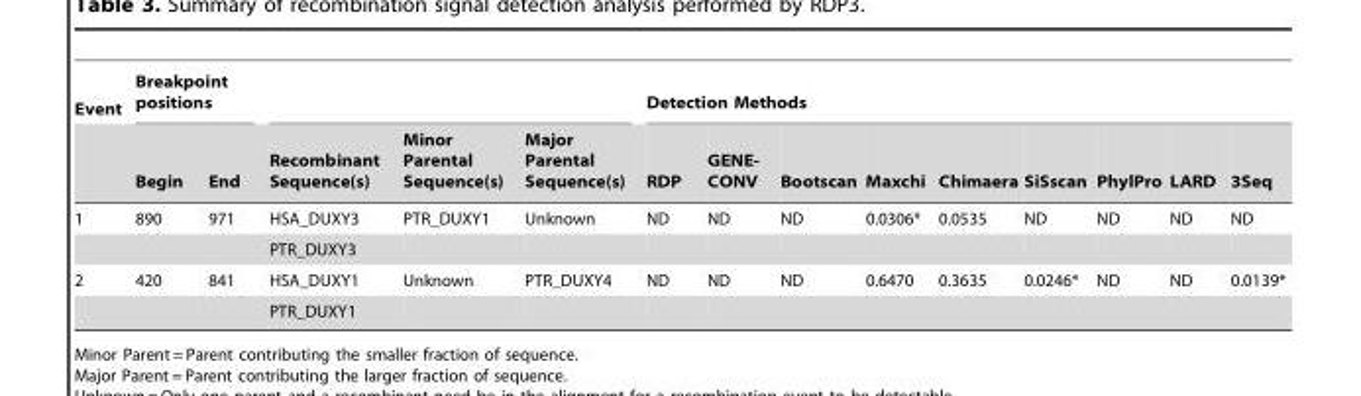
<table><thead><tr><td rowspan="2">Event</td><td colspan="2">Breakpoint positions</td><td rowspan="2">Recombinant Sequence(s)</td><td rowspan="2">Minor Parental Sequence(s)</td><td rowspan="2">Major Parental Sequence(s)</td><td colspan="9">Detection Methods</td></tr><tr><td>Begin</td><td>End</td><td>RDP</td><td>GENE- CONV</td><td>Bootscan</td><td>Maxchi</td><td>Chimaera</td><td>SiSscan</td><td>PhylPro</td><td>LARD</td><td>3Seq</td></tr></thead><tbody><tr><td rowspan="2">1</td><td>890</td><td>971</td><td>HSA_DUXY3</td><td>PTR_DUXY1</td><td>Unknown</td><td>ND</td><td>ND</td><td>ND</td><td>0.0306*</td><td>0.0535</td><td>ND</td><td>ND</td><td>ND</td><td>ND</td></tr><tr><td></td><td></td><td>PTR_DUXY3</td><td></td><td></td><td></td><td></td><td></td><td></td><td></td><td></td><td></td><td></td><td></td></tr><tr><td rowspan="2">2</td><td>420</td><td>841</td><td>HSA_DUXY1</td><td>Unknown</td><td>PTR_DUXY4</td><td>ND</td><td>ND</td><td>ND</td><td>0.6470</td><td>0.3635</td><td>0.0246*</td><td>ND</td><td>ND</td><td>0.0139*</td></tr><tr><td></td><td></td><td>PTR_DUXY1</td><td></td><td></td><td></td><td colspan="8"></td></tr></tbody></table>